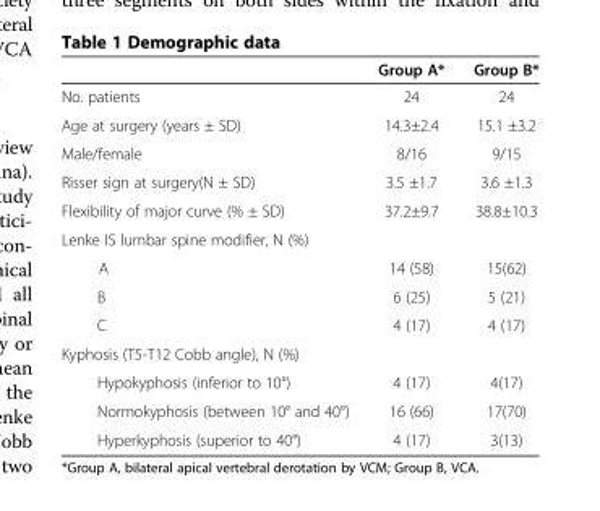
<table><thead><tr><td></td><td>Group A*</td><td>Group B*</td></tr></thead><tbody><tr><td>No. patients</td><td>24</td><td>24</td></tr><tr><td>Age at surgery (years ± SD)</td><td>14.3±2.4</td><td>15.1 ±3.2</td></tr><tr><td>Male/female</td><td>8/16</td><td>9/15</td></tr><tr><td>Risser sign at surgery(N ± SD)</td><td>3.5 ±1.7</td><td>3.6 ±1.3</td></tr><tr><td>Flexibility of major curve (% ± SD)</td><td>37.2±9.7</td><td>38.8±10.3</td></tr><tr><td colspan="3">Lenke IS lumbar spine modifier, N (%)</td></tr><tr><td>A</td><td>14 (58)</td><td>15(62)</td></tr><tr><td>B</td><td>6 (25)</td><td>5 (21)</td></tr><tr><td>C</td><td>4 (17)</td><td>4 (17)</td></tr><tr><td colspan="3">Kyphosis (T5-T12 Cobb angle), N (%)</td></tr><tr><td>Hypokyphosis (inferior to 10°)</td><td>4 (17)</td><td>4(17)</td></tr><tr><td>Normokyphosis (between 10° and 40°)</td><td>16 (66)</td><td>17(70)</td></tr><tr><td>Hyperkyphosis (superior to 40°)</td><td>4 (17)</td><td>3(13)</td></tr></tbody></table>